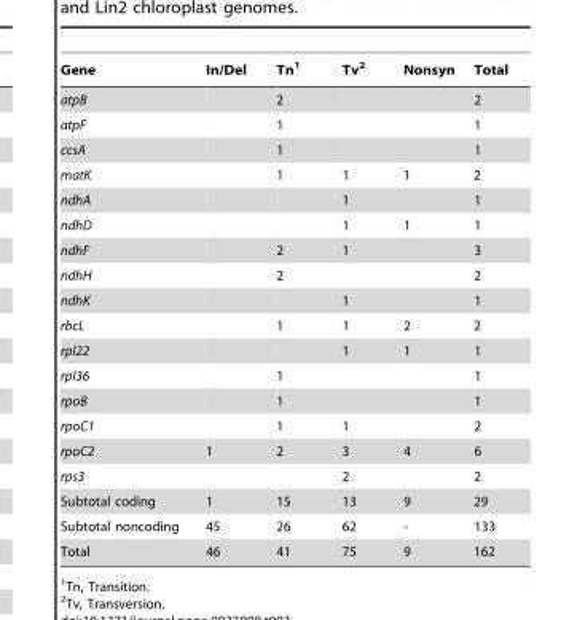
<table><thead><tr><td>Gene</td><td>In/Del</td><td>Tn<sup>1</sup></td><td>Tv<sup>2</sup></td><td>Nonsyn</td><td>Total</td></tr></thead><tbody><tr><td>atpB</td><td></td><td>2</td><td></td><td></td><td>2</td></tr><tr><td>atpF</td><td></td><td>1</td><td></td><td></td><td>1</td></tr><tr><td>ccsA</td><td></td><td>1</td><td></td><td></td><td>1</td></tr><tr><td>matK</td><td></td><td>1</td><td>1</td><td>1</td><td>2</td></tr><tr><td>ndhA</td><td></td><td></td><td>1</td><td></td><td>1</td></tr><tr><td>ndhD</td><td></td><td></td><td>1</td><td>1</td><td>1</td></tr><tr><td>ndhF</td><td></td><td>2</td><td>1</td><td></td><td>3</td></tr><tr><td>ndhH</td><td></td><td>2</td><td></td><td></td><td>2</td></tr><tr><td>ndhK</td><td></td><td></td><td>1</td><td></td><td>1</td></tr><tr><td>rbcL</td><td></td><td>1</td><td>1</td><td>2</td><td>2</td></tr><tr><td>rpl22</td><td></td><td></td><td>1</td><td>1</td><td>1</td></tr><tr><td>rpl36</td><td></td><td>1</td><td></td><td></td><td>1</td></tr><tr><td>rpoB</td><td></td><td>1</td><td></td><td></td><td>1</td></tr><tr><td>rpoC1</td><td></td><td>1</td><td>1</td><td></td><td>2</td></tr><tr><td>rpoC2</td><td>1</td><td>2</td><td>3</td><td>4</td><td>6</td></tr><tr><td>rps3</td><td></td><td></td><td>2</td><td></td><td>2</td></tr><tr><td>Subtotal coding</td><td>1</td><td>15</td><td>13</td><td>9</td><td>29</td></tr><tr><td>Subtotal noncoding</td><td>45</td><td>26</td><td>62</td><td>-</td><td>133</td></tr><tr><td>Total</td><td>46</td><td>41</td><td>75</td><td>9</td><td>162</td></tr></tbody></table>